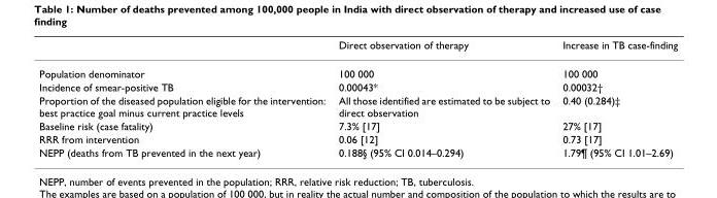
<table><thead><tr><td></td><td>Direct observation of therapy</td><td>Increase in TB case-finding</td></tr></thead><tbody><tr><td>Population denominator</td><td>100 000</td><td>100 000</td></tr><tr><td>Incidence of smear-positive TB</td><td>0.00043*</td><td>0.00032†</td></tr><tr><td>Proportion of the diseased population eligible for the intervention: best practice goal minus current practice levels</td><td>All those identified are estimated to be subject to direct observation</td><td>0.40 (0.284)‡</td></tr><tr><td>Baseline risk (case fatality)</td><td>7.3% [17]</td><td>27% [17]</td></tr><tr><td>RRR from intervention</td><td>0.06 [12]</td><td>0.73 [17]</td></tr><tr><td>NEPP (deaths from TB prevented in the next year)</td><td>0.188§ (95% CI 0.014–0.294)</td><td>1.79¶ (95% CI 1.01–2.69)</td></tr></tbody></table>